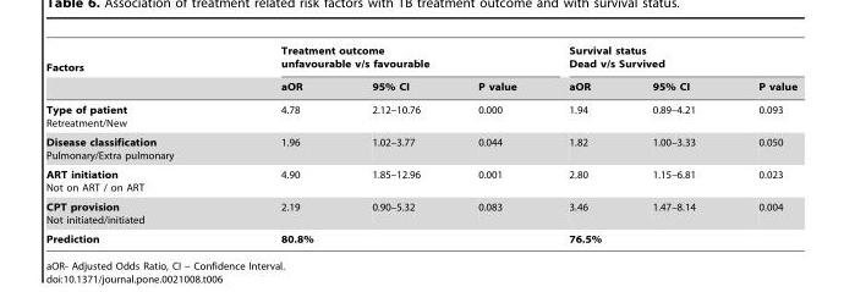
<table><thead><tr><td rowspan="2">Factors</td><td colspan="3">Treatment outcome unfavourable v/s favourable</td><td colspan="3">Survival status Dead v/s Survived</td></tr><tr><td>aOR</td><td>95% CI</td><td>P value</td><td>aOR</td><td>95% CI</td><td>P value</td></tr></thead><tbody><tr><td>Type of patient Retreatment/New</td><td>4.78</td><td>2.12–10.76</td><td>0.000</td><td>1.94</td><td>0.89–4.21</td><td>0.093</td></tr><tr><td>Disease classification Pulmonary/Extra pulmonary</td><td>1.96</td><td>1.02–3.77</td><td>0.044</td><td>1.82</td><td>1.00–3.33</td><td>0.050</td></tr><tr><td>ART initiation Not on ART / on ART</td><td>4.90</td><td>1.85–12.96</td><td>0.001</td><td>2.80</td><td>1.15–6.81</td><td>0.023</td></tr><tr><td>CPT provision Not initiated/initiated</td><td>2.19</td><td>0.90–5.32</td><td>0.083</td><td>3.46</td><td>1.47–8.14</td><td>0.004</td></tr><tr><td>Prediction</td><td colspan="3">80.8%</td><td colspan="3">76.5%</td></tr></tbody></table>